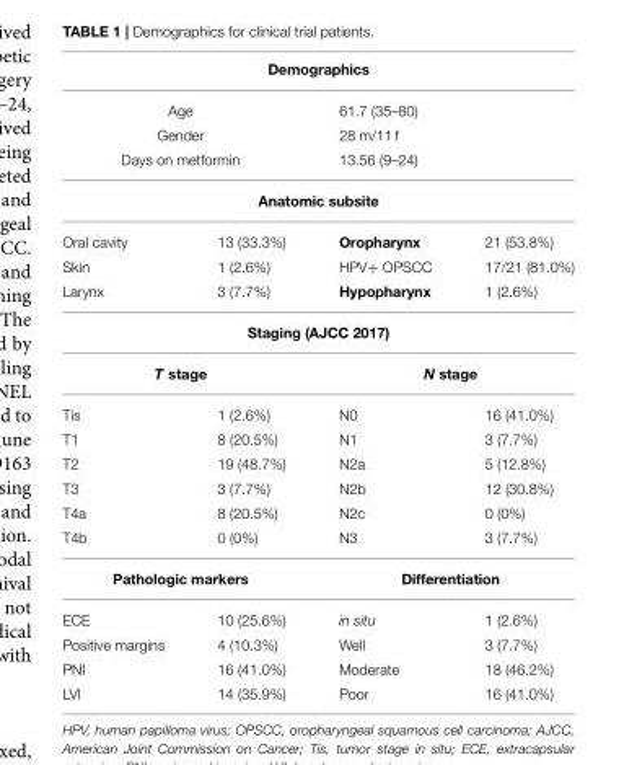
<table><thead><tr><td colspan="4">Demographics</td></tr></thead><tbody><tr><td colspan="2">Age</td><td>61.7 (35–80)</td><td></td></tr><tr><td colspan="2">Gender</td><td>28 m/11 f</td><td></td></tr><tr><td colspan="2">Days on metformin</td><td>13.56 (9–24)</td><td></td></tr><tr><td colspan="4">Anatomic subsite</td></tr><tr><td>Oral cavity</td><td>13 (33.3%)</td><td>Oropharynx</td><td>21 (53.8%)</td></tr><tr><td>Skin</td><td>1 (2.6%)</td><td>HPV+ OPSCC</td><td>17/21 (81.0%)</td></tr><tr><td>Larynx</td><td>3 (7.7%)</td><td>Hypopharynx</td><td>1 (2.6%)</td></tr><tr><td colspan="4">Staging (AJCC 2017)</td></tr><tr><td colspan="2">T stage</td><td colspan="2">N stage</td></tr><tr><td>Tis</td><td>1 (2.6%)</td><td>N0</td><td>16 (41.0%)</td></tr><tr><td>T1</td><td>8 (20.5%)</td><td>N1</td><td>3 (7.7%)</td></tr><tr><td>T2</td><td>19 (48.7%)</td><td>N2a</td><td>5 (12.8%)</td></tr><tr><td>T3</td><td>3 (7.7%)</td><td>N2b</td><td>12 (30.8%)</td></tr><tr><td>T4a</td><td>8 (20.5%)</td><td>N2c</td><td>0 (0%)</td></tr><tr><td>T4b</td><td>0 (0%)</td><td>N3</td><td>3 (7.7%)</td></tr><tr><td colspan="2">Pathologic markers</td><td colspan="2">Differentiation</td></tr><tr><td>ECE</td><td>10 (25.6%)</td><td>in situ</td><td>1 (2.6%)</td></tr><tr><td>Positive margins</td><td>4 (10.3%)</td><td>Well</td><td>3 (7.7%)</td></tr><tr><td>PNI</td><td>16 (41.0%)</td><td>Moderate</td><td>18 (46.2%)</td></tr><tr><td>LVI</td><td>14 (35.9%)</td><td>Poor</td><td>16 (41.0%)</td></tr></tbody></table>